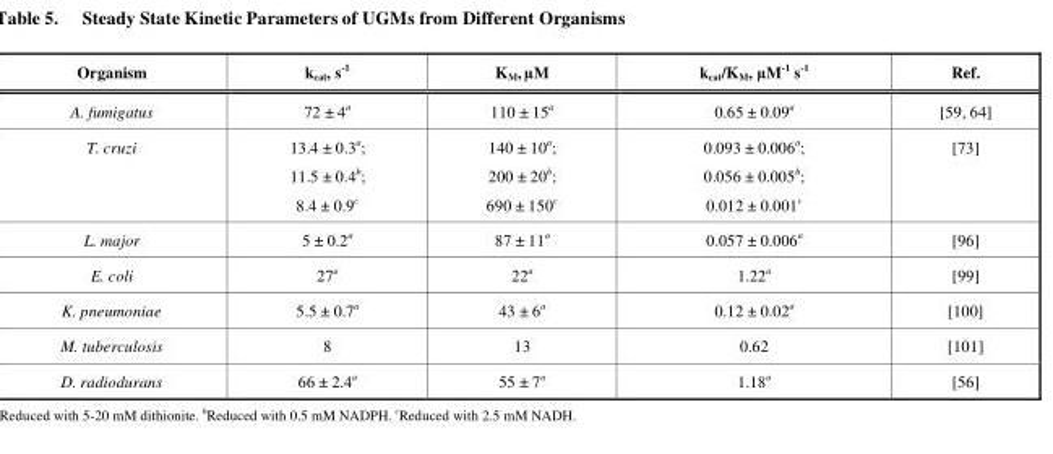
<table><thead><tr><td>Organism</td><td>k<sub>cat</sub>, s<sup>-1</sup></td><td>K<sub>M</sub>, µM</td><td>k<sub>cat</sub>/K<sub>M</sub>, µM<sup>-1</sup> s<sup>-1</sup></td><td>Ref.</td></tr></thead><tbody><tr><td>A. fumigatus</td><td>72 ± 4a</td><td>110 ± 15a</td><td>0.65 ± 0.09a</td><td>[59, 64]</td></tr><tr><td>T. cruzi</td><td>13.4 ± 0.3a; 11.5 ± 0.4b; 8.4 ± 0.9c</td><td>140 ± 10a; 200 ± 20b; 690 ± 150c</td><td>0.093 ± 0.006a; 0.056 ± 0.005b; 0.012 ± 0.001c</td><td>[73]</td></tr><tr><td>L. major</td><td>5 ± 0.2a</td><td>87 ± 11a</td><td>0.057 ± 0.006a</td><td>[96]</td></tr><tr><td>E. coli</td><td>27a</td><td>22a</td><td>1.22a</td><td>[99]</td></tr><tr><td>K. pneumoniae</td><td>5.5 ± 0.7a</td><td>43 ± 6a</td><td>0.12 ± 0.02a</td><td>[100]</td></tr><tr><td>M. tuberculosis</td><td>8</td><td>13</td><td>0.62</td><td>[101]</td></tr><tr><td>D. radiodurans</td><td>66 ± 2.4a</td><td>55 ± 7a</td><td>1.18a</td><td>[56]</td></tr></tbody></table>